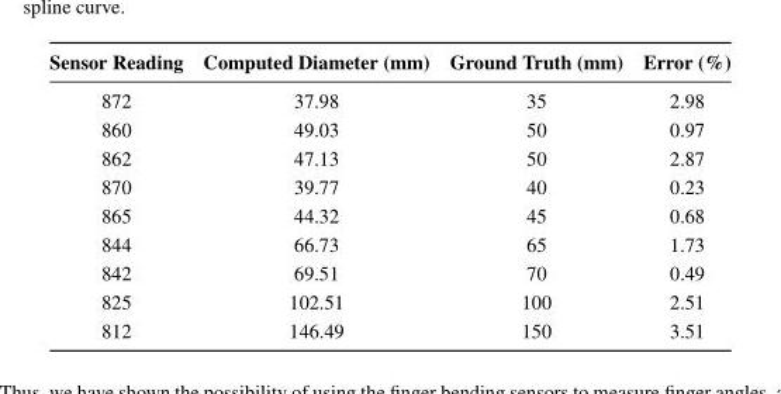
<table><thead><tr><td>Sensor Reading</td><td>Computed Diameter (mm)</td><td>Ground Truth (mm)</td><td>Error (%)</td></tr></thead><tbody><tr><td>872</td><td>37.98</td><td>35</td><td>2.98</td></tr><tr><td>860</td><td>49.03</td><td>50</td><td>0.97</td></tr><tr><td>862</td><td>47.13</td><td>50</td><td>2.87</td></tr><tr><td>870</td><td>39.77</td><td>40</td><td>0.23</td></tr><tr><td>865</td><td>44.32</td><td>45</td><td>0.68</td></tr><tr><td>844</td><td>66.73</td><td>65</td><td>1.73</td></tr><tr><td>842</td><td>69.51</td><td>70</td><td>0.49</td></tr><tr><td>825</td><td>102.51</td><td>100</td><td>2.51</td></tr><tr><td>812</td><td>146.49</td><td>150</td><td>3.51</td></tr></tbody></table>